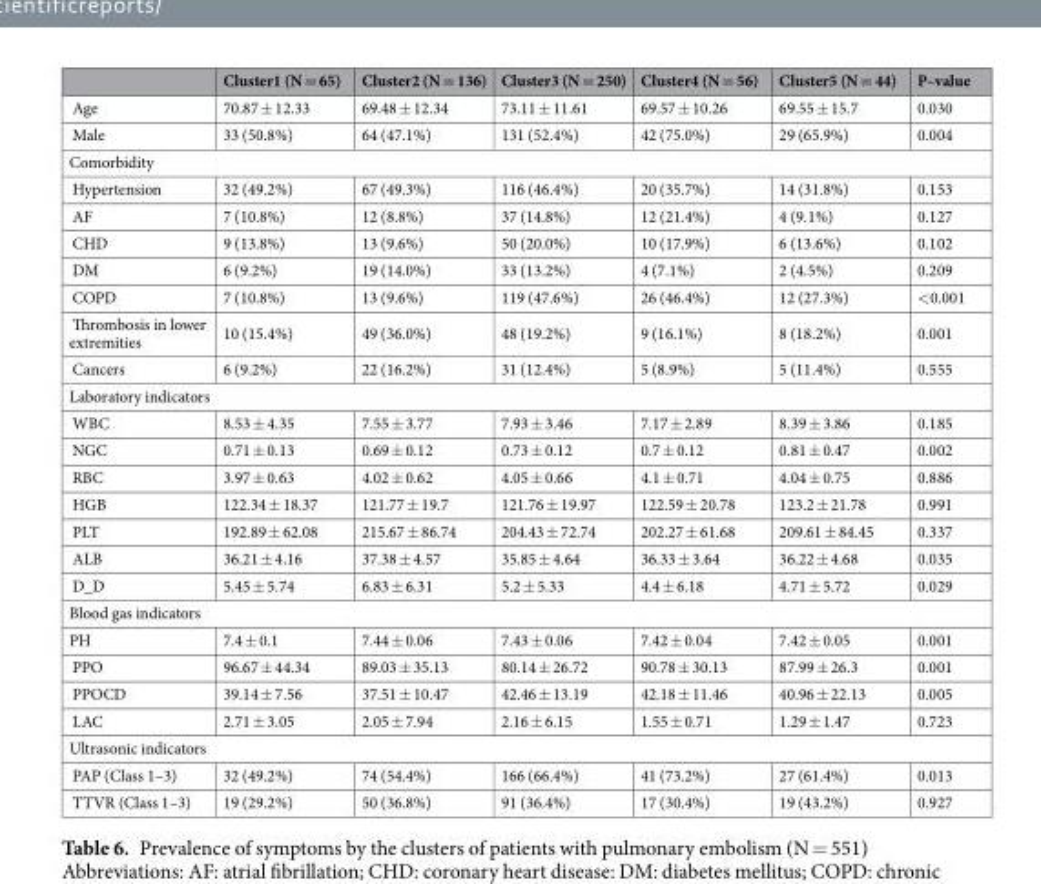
<table><thead><tr><td></td><td>Cluster1 (N = 65)</td><td>Cluster2 (N = 136)</td><td>Cluster3 (N = 250)</td><td>Cluster4 (N = 56)</td><td>Cluster5 (N = 44)</td><td>P–value</td></tr></thead><tbody><tr><td>Age</td><td>70.87 ± 12.33</td><td>69.48 ± 12.34</td><td>73.11 ± 11.61</td><td>69.57 ± 10.26</td><td>69.55 ± 15.7</td><td>0.030</td></tr><tr><td>Male</td><td>33 (50.8%)</td><td>64 (47.1%)</td><td>131 (52.4%)</td><td>42 (75.0%)</td><td>29 (65.9%)</td><td>0.004</td></tr><tr><td colspan="7">Comorbidity</td></tr><tr><td>Hypertension</td><td>32 (49.2%)</td><td>67 (49.3%)</td><td>116 (46.4%)</td><td>20 (35.7%)</td><td>14 (31.8%)</td><td>0.153</td></tr><tr><td>AF</td><td>7 (10.8%)</td><td>12 (8.8%)</td><td>37 (14.8%)</td><td>12 (21.4%)</td><td>4 (9.1%)</td><td>0.127</td></tr><tr><td>CHD</td><td>9 (13.8%)</td><td>13 (9.6%)</td><td>50 (20.0%)</td><td>10 (17.9%)</td><td>6 (13.6%)</td><td>0.102</td></tr><tr><td>DM</td><td>6 (9.2%)</td><td>19 (14.0%)</td><td>33 (13.2%)</td><td>4 (7.1%)</td><td>2 (4.5%)</td><td>0.209</td></tr><tr><td>COPD</td><td>7 (10.8%)</td><td>13 (9.6%)</td><td>119 (47.6%)</td><td>26 (46.4%)</td><td>12 (27.3%)</td><td>&lt;0.001</td></tr><tr><td>Thrombosis in lower extremities</td><td>10 (15.4%)</td><td>49 (36.0%)</td><td>48 (19.2%)</td><td>9 (16.1%)</td><td>8 (18.2%)</td><td>0.001</td></tr><tr><td>Cancers</td><td>6 (9.2%)</td><td>22 (16.2%)</td><td>31 (12.4%)</td><td>5 (8.9%)</td><td>5 (11.4%)</td><td>0.555</td></tr><tr><td colspan="7">Laboratory indicators</td></tr><tr><td>WBC</td><td>8.53 ± 4.35</td><td>7.55 ± 3.77</td><td>7.93 ± 3.46</td><td>7.17 ± 2.89</td><td>8.39 ± 3.86</td><td>0.185</td></tr><tr><td>NGC</td><td>0.71 ± 0.13</td><td>0.69 ± 0.12</td><td>0.73 ± 0.12</td><td>0.7 ± 0.12</td><td>0.81 ± 0.47</td><td>0.002</td></tr><tr><td>RBC</td><td>3.97 ± 0.63</td><td>4.02 ± 0.62</td><td>4.05 ± 0.66</td><td>4.1 ± 0.71</td><td>4.04 ± 0.75</td><td>0.886</td></tr><tr><td>HGB</td><td>122.34 ± 18.37</td><td>121.77 ± 19.7</td><td>121.76 ± 19.97</td><td>122.59 ± 20.78</td><td>123.2 ± 21.78</td><td>0.991</td></tr><tr><td>PLT</td><td>192.89 ± 62.08</td><td>215.67 ± 86.74</td><td>204.43 ± 72.74</td><td>202.27 ± 61.68</td><td>209.61 ± 84.45</td><td>0.337</td></tr><tr><td>ALB</td><td>36.21 ± 4.16</td><td>37.38 ± 4.57</td><td>35.85 ± 4.64</td><td>36.33 ± 3.64</td><td>36.22 ± 4.68</td><td>0.035</td></tr><tr><td>D_D</td><td>5.45 ± 5.74</td><td>6.83 ± 6.31</td><td>5.2 ± 5.33</td><td>4.4 ± 6.18</td><td>4.71 ± 5.72</td><td>0.029</td></tr><tr><td colspan="7">Blood gas indicators</td></tr><tr><td>PH</td><td>7.4 ± 0.1</td><td>7.44 ± 0.06</td><td>7.43 ± 0.06</td><td>7.42 ± 0.04</td><td>7.42 ± 0.05</td><td>0.001</td></tr><tr><td>PPO</td><td>96.67 ± 44.34</td><td>89.03 ± 35.13</td><td>80.14 ± 26.72</td><td>90.78 ± 30.13</td><td>87.99 ± 26.3</td><td>0.001</td></tr><tr><td>PPOCD</td><td>39.14 ± 7.56</td><td>37.51 ± 10.47</td><td>42.46 ± 13.19</td><td>42.18 ± 11.46</td><td>40.96 ± 22.13</td><td>0.005</td></tr><tr><td>LAC</td><td>2.71 ± 3.05</td><td>2.05 ± 7.94</td><td>2.16 ± 6.15</td><td>1.55 ± 0.71</td><td>1.29 ± 1.47</td><td>0.723</td></tr><tr><td colspan="7">Ultrasonic indicators</td></tr><tr><td>PAP (Class 1–3)</td><td>32 (49.2%)</td><td>74 (54.4%)</td><td>166 (66.4%)</td><td>41 (73.2%)</td><td>27 (61.4%)</td><td>0.013</td></tr><tr><td>TTVR (Class 1–3)</td><td>19 (29.2%)</td><td>50 (36.8%)</td><td>91 (36.4%)</td><td>17 (30.4%)</td><td>19 (43.2%)</td><td>0.927</td></tr></tbody></table>